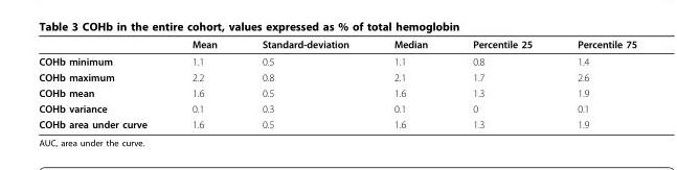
<table><thead><tr><td></td><td>Mean</td><td>Standard-deviation</td><td>Median</td><td>Percentile 25</td><td>Percentile 75</td></tr></thead><tbody><tr><td>COHb minimum</td><td>1.1</td><td>0.5</td><td>1.1</td><td>0.8</td><td>1.4</td></tr><tr><td>COHb maximum</td><td>2.2</td><td>0.8</td><td>2.1</td><td>1.7</td><td>2.6</td></tr><tr><td>COHb mean</td><td>1.6</td><td>0.5</td><td>1.6</td><td>1.3</td><td>1.9</td></tr><tr><td>COHb variance</td><td>0.1</td><td>0.3</td><td>0.1</td><td>0</td><td>0.1</td></tr><tr><td>COHb area under curve</td><td>1.6</td><td>0.5</td><td>1.6</td><td>1.3</td><td>1.9</td></tr></tbody></table>